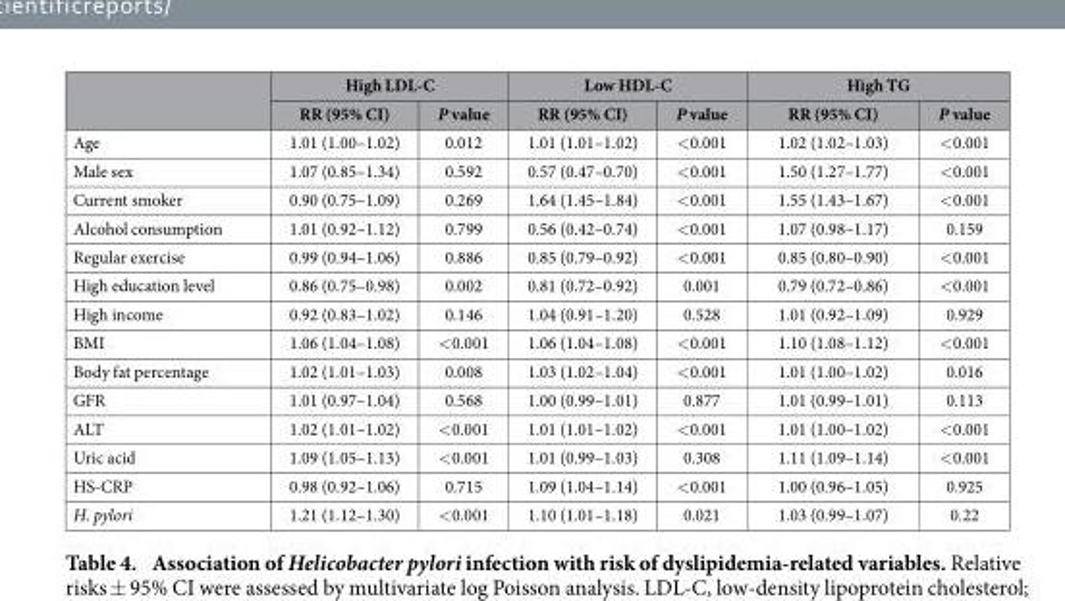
<table><thead><tr><td rowspan="2"></td><td colspan="2">High LDL-C</td><td colspan="2">Low HDL-C</td><td colspan="2">High TG</td></tr><tr><td>RR (95% CI)</td><td>P value</td><td>RR (95% CI)</td><td>P value</td><td>RR (95% CI)</td><td>P value</td></tr></thead><tbody><tr><td>Age</td><td>1.01 (1.00–1.02)</td><td>0.012</td><td>1.01 (1.01–1.02)</td><td>&lt; 0.001</td><td>1.02 (1.02–1.03)</td><td>&lt; 0.001</td></tr><tr><td>Male sex</td><td>1.07 (0.85–1.34)</td><td>0.592</td><td>0.57 (0.47–0.70)</td><td>&lt; 0.001</td><td>1.50 (1.27–1.77)</td><td>&lt; 0.001</td></tr><tr><td>Current smoker</td><td>0.90 (0.75–1.09)</td><td>0.269</td><td>1.64 (1.45–1.84)</td><td>&lt; 0.001</td><td>1.55 (1.43–1.67)</td><td>&lt; 0.001</td></tr><tr><td>Alcohol consumption</td><td>1.01 (0.92–1.12)</td><td>0.799</td><td>0.56 (0.42–0.74)</td><td>&lt; 0.001</td><td>1.07 (0.98–1.17)</td><td>0.159</td></tr><tr><td>Regular exercise</td><td>0.99 (0.94–1.06)</td><td>0.886</td><td>0.85 (0.79–0.92)</td><td>&lt; 0.001</td><td>0.85 (0.80–0.90)</td><td>&lt; 0.001</td></tr><tr><td>High education level</td><td>0.86 (0.75–0.98)</td><td>0.002</td><td>0.81 (0.72–0.92)</td><td>0.001</td><td>0.79 (0.72–0.86)</td><td>&lt; 0.001</td></tr><tr><td>High income</td><td>0.92 (0.83–1.02)</td><td>0.146</td><td>1.04 (0.91–1.20)</td><td>0.528</td><td>1.01 (0.92–1.09)</td><td>0.929</td></tr><tr><td>BMI</td><td>1.06 (1.04–1.08)</td><td>&lt; 0.001</td><td>1.06 (1.04–1.08)</td><td>&lt; 0.001</td><td>1.10 (1.08–1.12)</td><td>&lt; 0.001</td></tr><tr><td>Body fat percentage</td><td>1.02 (1.01–1.03)</td><td>0.008</td><td>1.03 (1.02–1.04)</td><td>&lt; 0.001</td><td>1.01 (1.00–1.02)</td><td>0.016</td></tr><tr><td>GFR</td><td>1.01 (0.97–1.04)</td><td>0.568</td><td>1.00 (0.99–1.01)</td><td>0.877</td><td>1.01 (0.99–1.01)</td><td>0.113</td></tr><tr><td>ALT</td><td>1.02 (1.01–1.02)</td><td>&lt; 0.001</td><td>1.01 (1.01–1.02)</td><td>&lt; 0.001</td><td>1.01 (1.00–1.02)</td><td>&lt; 0.001</td></tr><tr><td>Uric acid</td><td>1.09 (1.05–1.13)</td><td>&lt; 0.001</td><td>1.01 (0.99–1.03)</td><td>0.308</td><td>1.11 (1.09–1.14)</td><td>&lt; 0.001</td></tr><tr><td>HS-CRP</td><td>0.98 (0.92–1.06)</td><td>0.715</td><td>1.09 (1.04–1.14)</td><td>&lt; 0.001</td><td>1.00 (0.96–1.05)</td><td>0.925</td></tr><tr><td>H. pylori</td><td>1.21 (1.12–1.30)</td><td>&lt; 0.001</td><td>1.10 (1.01–1.18)</td><td>0.021</td><td>1.03 (0.99–1.07)</td><td>0.22</td></tr></tbody></table>